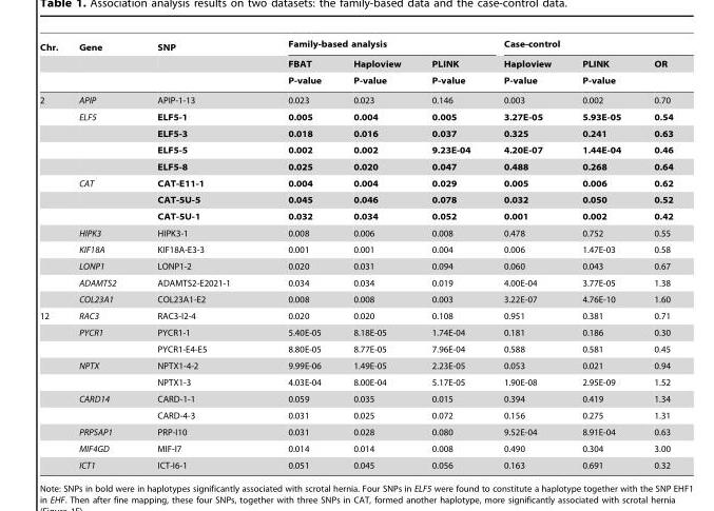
<table><thead><tr><td rowspan="3">Chr.</td><td rowspan="3">Gene</td><td rowspan="3">SNP</td><td colspan="3">Family-based analysis</td><td colspan="3">Case-control</td></tr><tr><td rowspan="2">FBAT P-value</td><td rowspan="2">Haploview P-value</td><td rowspan="2">PLINK P-value</td><td rowspan="2">Haploview P-value</td><td rowspan="2">PLINK P-value</td><td rowspan="2">OR</td></tr><tr></tr></thead><tbody><tr><td rowspan="13">2</td><td>APIP</td><td>APIP-1-13</td><td>0.023</td><td>0.023</td><td>0.146</td><td>0.003</td><td>0.002</td><td>0.70</td></tr><tr><td>ELF5</td><td>ELF5-1</td><td>0.005</td><td>0.004</td><td>0.005</td><td>3.27E-05</td><td>5.93E-05</td><td>0.54</td></tr><tr><td></td><td>ELF5-3</td><td>0.018</td><td>0.016</td><td>0.037</td><td>0.325</td><td>0.241</td><td>0.63</td></tr><tr><td></td><td>ELF5-5</td><td>0.002</td><td>0.002</td><td>9.23E-04</td><td>4.20E-07</td><td>1.44E-04</td><td>0.46</td></tr><tr><td></td><td>ELF5-8</td><td>0.025</td><td>0.020</td><td>0.047</td><td>0.488</td><td>0.268</td><td>0.64</td></tr><tr><td>CAT</td><td>CAT-E11-1</td><td>0.004</td><td>0.004</td><td>0.029</td><td>0.005</td><td>0.006</td><td>0.62</td></tr><tr><td></td><td>CAT-5U-5</td><td>0.045</td><td>0.046</td><td>0.078</td><td>0.032</td><td>0.050</td><td>0.52</td></tr><tr><td></td><td>CAT-5U-1</td><td>0.032</td><td>0.034</td><td>0.052</td><td>0.001</td><td>0.002</td><td>0.42</td></tr><tr><td>HIPK3</td><td>HIPK3-1</td><td>0.008</td><td>0.006</td><td>0.008</td><td>0.478</td><td>0.752</td><td>0.55</td></tr><tr><td>KIF18A</td><td>KIF18A-E3-3</td><td>0.001</td><td>0.001</td><td>0.004</td><td>0.006</td><td>1.47E-03</td><td>0.58</td></tr><tr><td>LONP1</td><td>LONP1-2</td><td>0.020</td><td>0.031</td><td>0.094</td><td>0.060</td><td>0.043</td><td>0.67</td></tr><tr><td>ADAMTS2</td><td>ADAMTS2-E2021-1</td><td>0.034</td><td>0.034</td><td>0.019</td><td>4.00E-04</td><td>3.77E-05</td><td>1.38</td></tr><tr><td>COL23A1</td><td>COL23A1-E2</td><td>0.008</td><td>0.008</td><td>0.003</td><td>3.22E-07</td><td>4.76E-10</td><td>1.60</td></tr><tr><td rowspan="10">12</td><td>RAC3</td><td>RAC3-I2-4</td><td>0.020</td><td>0.020</td><td>0.108</td><td>0.951</td><td>0.381</td><td>0.71</td></tr><tr><td>PYCR1</td><td>PYCR1-1</td><td>5.40E-05</td><td>8.18E-05</td><td>1.74E-04</td><td>0.181</td><td>0.186</td><td>0.30</td></tr><tr><td></td><td>PYCR1-E4-E5</td><td>8.80E-05</td><td>8.77E-05</td><td>7.96E-04</td><td>0.588</td><td>0.581</td><td>0.45</td></tr><tr><td>NPTX</td><td>NPTX1-4-2</td><td>9.99E-06</td><td>1.49E-05</td><td>2.23E-05</td><td>0.053</td><td>0.021</td><td>0.94</td></tr><tr><td></td><td>NPTX1-3</td><td>4.03E-04</td><td>8.00E-04</td><td>5.17E-05</td><td>1.90E-08</td><td>2.95E-09</td><td>1.52</td></tr><tr><td>CARD14</td><td>CARD-1-1</td><td>0.059</td><td>0.035</td><td>0.015</td><td>0.394</td><td>0.419</td><td>1.34</td></tr><tr><td></td><td>CARD-4-3</td><td>0.031</td><td>0.025</td><td>0.072</td><td>0.156</td><td>0.275</td><td>1.31</td></tr><tr><td>PRPSAP1</td><td>PRP-I10</td><td>0.031</td><td>0.028</td><td>0.080</td><td>9.52E-04</td><td>8.91E-04</td><td>0.63</td></tr><tr><td>MIF4GD</td><td>MIF-I7</td><td>0.014</td><td>0.014</td><td>0.008</td><td>0.490</td><td>0.304</td><td>3.00</td></tr><tr><td>ICT1</td><td>ICT-I6-1</td><td>0.051</td><td>0.045</td><td>0.056</td><td>0.163</td><td>0.691</td><td>0.32</td></tr></tbody></table>